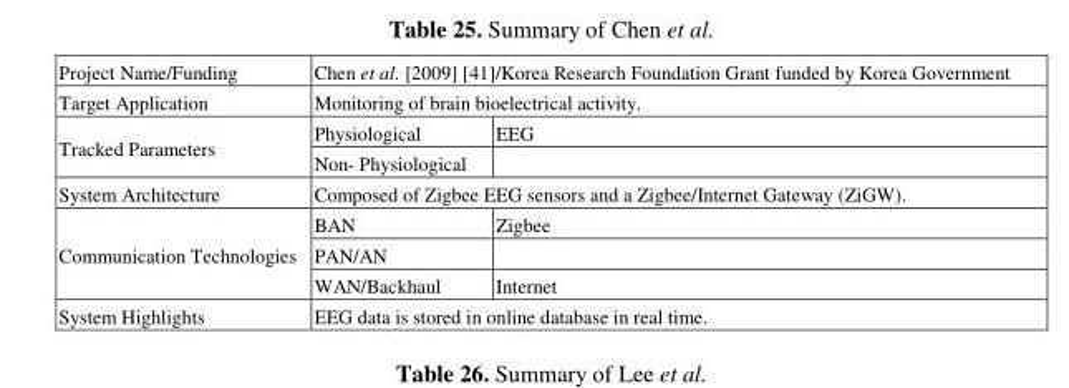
<table><tbody><tr><td>Project Name/Funding</td><td colspan="2">Chen et al. [2009] [41]/Korea Research Foundation Grant funded by Korea Government</td></tr><tr><td>Target Application</td><td colspan="2">Monitoring of brain bioelectrical activity.</td></tr><tr><td rowspan="2">Tracked Parameters</td><td>Physiological</td><td>EEG</td></tr><tr><td>Non- Physiological</td><td></td></tr><tr><td>System Architecture</td><td colspan="2">Composed of Zigbee EEG sensors and a Zigbee/Internet Gateway (ZiGW).</td></tr><tr><td rowspan="3">Communication Technologies</td><td>BAN</td><td>Zigbee</td></tr><tr><td>PAN/AN</td><td></td></tr><tr><td>WAN/Backhaul</td><td>Internet</td></tr><tr><td>System Highlights</td><td colspan="2">EEG data is stored in online database in real time.</td></tr></tbody></table>